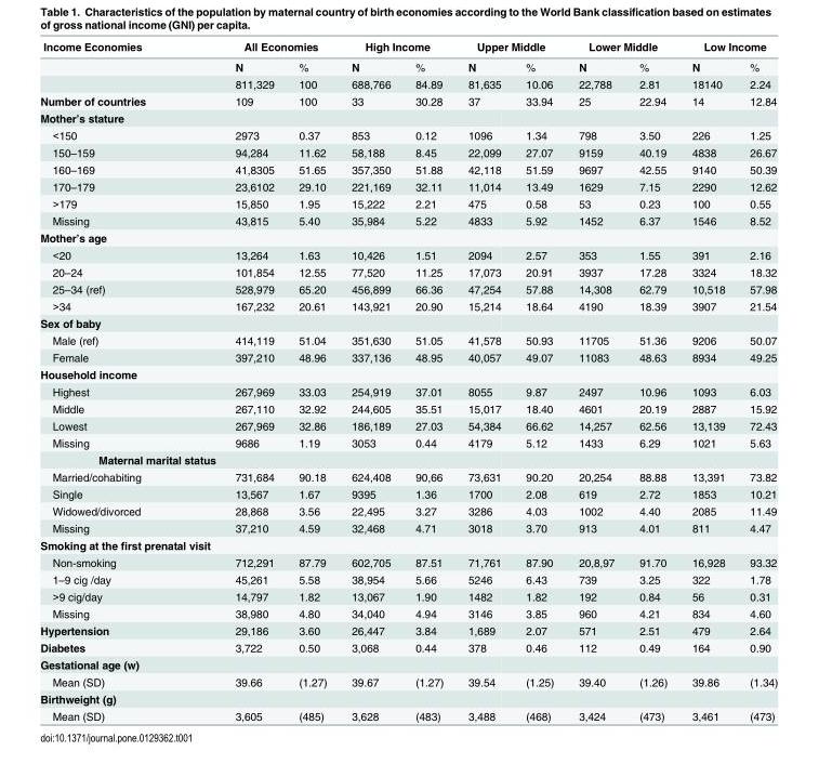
<table><thead><tr><td rowspan="2">Income Economies</td><td colspan="2">All Economies</td><td colspan="2">High Income</td><td colspan="2">Upper Middle</td><td colspan="2">Lower Middle</td><td colspan="2">Low Income</td></tr><tr><td>N</td><td>%</td><td>N</td><td>%</td><td>N</td><td>%</td><td>N</td><td>%</td><td>N</td><td>%</td></tr></thead><tbody><tr><td></td><td>811,329</td><td>100</td><td>688,766</td><td>84.89</td><td>81,635</td><td>10.06</td><td>22,788</td><td>2.81</td><td>18140</td><td>2.24</td></tr><tr><td>Number of countries</td><td>109</td><td>100</td><td>33</td><td>30.28</td><td>37</td><td>33.94</td><td>25</td><td>22.94</td><td>14</td><td>12.84</td></tr><tr><td colspan="11">Mother’s stature</td></tr><tr><td>&lt;150</td><td>2973</td><td>0.37</td><td>853</td><td>0.12</td><td>1096</td><td>1.34</td><td>798</td><td>3.50</td><td>226</td><td>1.25</td></tr><tr><td>150–159</td><td>94,284</td><td>11.62</td><td>58,188</td><td>8.45</td><td>22,099</td><td>27.07</td><td>9159</td><td>40.19</td><td>4838</td><td>26.67</td></tr><tr><td>160–169</td><td>41,8305</td><td>51.65</td><td>357,350</td><td>51.88</td><td>42,118</td><td>51.59</td><td>9697</td><td>42.55</td><td>9140</td><td>50.39</td></tr><tr><td>170–179</td><td>23,6102</td><td>29.10</td><td>221,169</td><td>32.11</td><td>11,014</td><td>13.49</td><td>1629</td><td>7.15</td><td>2290</td><td>12.62</td></tr><tr><td>&gt;179</td><td>15,850</td><td>1.95</td><td>15,222</td><td>2.21</td><td>475</td><td>0.58</td><td>53</td><td>0.23</td><td>100</td><td>0.55</td></tr><tr><td>Missing</td><td>43,815</td><td>5.40</td><td>35,984</td><td>5.22</td><td>4833</td><td>5.92</td><td>1452</td><td>6.37</td><td>1546</td><td>8.52</td></tr><tr><td colspan="11">Mother’s age</td></tr><tr><td>&lt;20</td><td>13,264</td><td>1.63</td><td>10,426</td><td>1.51</td><td>2094</td><td>2.57</td><td>353</td><td>1.55</td><td>391</td><td>2.16</td></tr><tr><td>20–24</td><td>101,854</td><td>12.55</td><td>77,520</td><td>11.25</td><td>17,073</td><td>20.91</td><td>3937</td><td>17.28</td><td>3324</td><td>18.32</td></tr><tr><td>25–34 (ref)</td><td>528,979</td><td>65.20</td><td>456,899</td><td>66.36</td><td>47,254</td><td>57.88</td><td>14,308</td><td>62.79</td><td>10,518</td><td>57.98</td></tr><tr><td>&gt;34</td><td>167,232</td><td>20.61</td><td>143,921</td><td>20.90</td><td>15,214</td><td>18.64</td><td>4190</td><td>18.39</td><td>3907</td><td>21.54</td></tr><tr><td colspan="11">Sex of baby</td></tr><tr><td>Male (ref)</td><td>414,119</td><td>51.04</td><td>351,630</td><td>51.05</td><td>41,578</td><td>50.93</td><td>11705</td><td>51.36</td><td>9206</td><td>50.07</td></tr><tr><td>Female</td><td>397,210</td><td>48.96</td><td>337,136</td><td>48.95</td><td>40,057</td><td>49.07</td><td>11083</td><td>48.63</td><td>8934</td><td>49.25</td></tr><tr><td colspan="11">Household income</td></tr><tr><td>Highest</td><td>267,969</td><td>33.03</td><td>254,919</td><td>37.01</td><td>8055</td><td>9.87</td><td>2497</td><td>10.96</td><td>1093</td><td>6.03</td></tr><tr><td>Middle</td><td>267,110</td><td>32.92</td><td>244,605</td><td>35.51</td><td>15,017</td><td>18.40</td><td>4601</td><td>20.19</td><td>2887</td><td>15.92</td></tr><tr><td>Lowest</td><td>267,969</td><td>32.86</td><td>186,189</td><td>27.03</td><td>54,384</td><td>66.62</td><td>14,257</td><td>62.56</td><td>13,139</td><td>72.43</td></tr><tr><td>Missing</td><td>9686</td><td>1.19</td><td>3053</td><td>0.44</td><td>4179</td><td>5.12</td><td>1433</td><td>6.29</td><td>1021</td><td>5.63</td></tr><tr><td colspan="11">Maternal marital status</td></tr><tr><td>Married/cohabiting</td><td>731,684</td><td>90.18</td><td>624,408</td><td>90,66</td><td>73,631</td><td>90.20</td><td>20,254</td><td>88.88</td><td>13,391</td><td>73.82</td></tr><tr><td>Single</td><td>13,567</td><td>1.67</td><td>9395</td><td>1.36</td><td>1700</td><td>2.08</td><td>619</td><td>2.72</td><td>1853</td><td>10.21</td></tr><tr><td>Widowed/divorced</td><td>28,868</td><td>3.56</td><td>22,495</td><td>3.27</td><td>3286</td><td>4.03</td><td>1002</td><td>4.40</td><td>2085</td><td>11.49</td></tr><tr><td>Missing</td><td>37,210</td><td>4.59</td><td>32,468</td><td>4.71</td><td>3018</td><td>3.70</td><td>913</td><td>4.01</td><td>811</td><td>4.47</td></tr><tr><td colspan="11">Smoking at the first prenatal visit</td></tr><tr><td>Non-smoking</td><td>712,291</td><td>87.79</td><td>602,705</td><td>87.51</td><td>71,761</td><td>87.90</td><td>20,8,97</td><td>91.70</td><td>16,928</td><td>93.32</td></tr><tr><td>1–9 cig /day</td><td>45,261</td><td>5.58</td><td>38,954</td><td>5.66</td><td>5246</td><td>6.43</td><td>739</td><td>3.25</td><td>322</td><td>1.78</td></tr><tr><td>&gt;9 cig/day</td><td>14,797</td><td>1.82</td><td>13,067</td><td>1.90</td><td>1482</td><td>1.82</td><td>192</td><td>0.84</td><td>56</td><td>0.31</td></tr><tr><td>Missing</td><td>38,980</td><td>4.80</td><td>34,040</td><td>4.94</td><td>3146</td><td>3.85</td><td>960</td><td>4.21</td><td>834</td><td>4.60</td></tr><tr><td>Hypertension</td><td>29,186</td><td>3.60</td><td>26,447</td><td>3.84</td><td>1,689</td><td>2.07</td><td>571</td><td>2.51</td><td>479</td><td>2.64</td></tr><tr><td>Diabetes</td><td>3,722</td><td>0.50</td><td>3,068</td><td>0.44</td><td>378</td><td>0.46</td><td>112</td><td>0.49</td><td>164</td><td>0.90</td></tr><tr><td colspan="11">Gestational age (w)</td></tr><tr><td>Mean (SD)</td><td>39.66</td><td>(1.27)</td><td>39.67</td><td>(1.27)</td><td>39.54</td><td>(1.25)</td><td>39.40</td><td>(1.26)</td><td>39.86</td><td>(1.34)</td></tr><tr><td colspan="11">Birthweight (g)</td></tr><tr><td>Mean (SD)</td><td>3,605</td><td>(485)</td><td>3,628</td><td>(483)</td><td>3,488</td><td>(468)</td><td>3,424</td><td>(473)</td><td>3,461</td><td>(473)</td></tr></tbody></table>